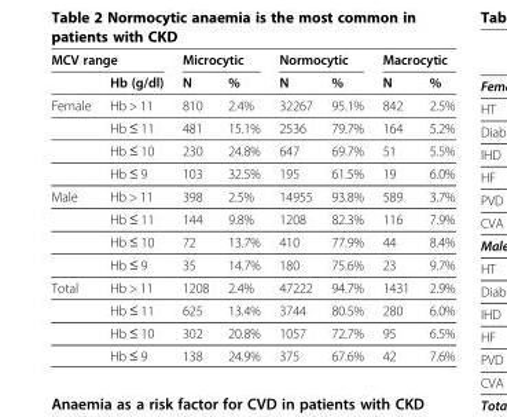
<table><thead><tr><td colspan="2">MCV range</td><td colspan="2">Microcytic</td><td colspan="2">Normocytic</td><td colspan="2">Macrocytic</td></tr><tr><td></td><td>Hb (g/dl)</td><td>N</td><td>%</td><td>N</td><td>%</td><td>N</td><td>%</td></tr></thead><tbody><tr><td rowspan="4">Female</td><td>Hb &gt; 11</td><td>810</td><td>2.4%</td><td>32267</td><td>95.1%</td><td>842</td><td>2.5%</td></tr><tr><td>Hb ≤ 11</td><td>481</td><td>15.1%</td><td>2536</td><td>79.7%</td><td>164</td><td>5.2%</td></tr><tr><td>Hb ≤ 10</td><td>230</td><td>24.8%</td><td>647</td><td>69.7%</td><td>51</td><td>5.5%</td></tr><tr><td>Hb ≤ 9</td><td>103</td><td>32.5%</td><td>195</td><td>61.5%</td><td>19</td><td>6.0%</td></tr><tr><td rowspan="4">Male</td><td>Hb &gt; 11</td><td>398</td><td>2.5%</td><td>14955</td><td>93.8%</td><td>589</td><td>3.7%</td></tr><tr><td>Hb ≤ 11</td><td>144</td><td>9.8%</td><td>1208</td><td>82.3%</td><td>116</td><td>7.9%</td></tr><tr><td>Hb ≤ 10</td><td>72</td><td>13.7%</td><td>410</td><td>77.9%</td><td>44</td><td>8.4%</td></tr><tr><td>Hb ≤ 9</td><td>35</td><td>14.7%</td><td>180</td><td>75.6%</td><td>23</td><td>9.7%</td></tr><tr><td rowspan="4">Total</td><td>Hb &gt; 11</td><td>1208</td><td>2.4%</td><td>47222</td><td>94.7%</td><td>1431</td><td>2.9%</td></tr><tr><td>Hb ≤ 11</td><td>625</td><td>13.4%</td><td>3744</td><td>80.5%</td><td>280</td><td>6.0%</td></tr><tr><td>Hb ≤ 10</td><td>302</td><td>20.8%</td><td>1057</td><td>72.7%</td><td>95</td><td>6.5%</td></tr><tr><td>Hb ≤ 9</td><td>138</td><td>24.9%</td><td>375</td><td>67.6%</td><td>42</td><td>7.6%</td></tr></tbody></table>